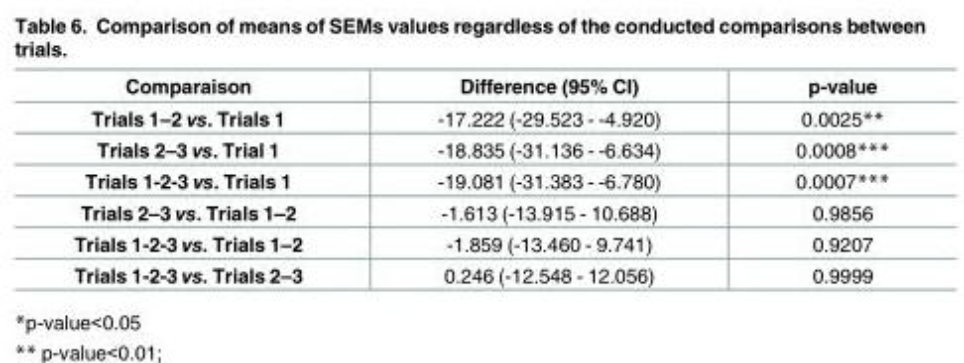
<table><thead><tr><td>Comparaison</td><td>Difference (95% CI)</td><td>p-value</td></tr></thead><tbody><tr><td>Trials 1–2 vs. Trials 1</td><td>-17.222 (-29.523 - -4.920)</td><td>0.0025**</td></tr><tr><td>Trials 2–3 vs. Trial 1</td><td>-18.835 (-31.136 - -6.634)</td><td>0.0008***</td></tr><tr><td>Trials 1-2-3 vs. Trials 1</td><td>-19.081 (-31.383 - -6.780)</td><td>0.0007***</td></tr><tr><td>Trials 2–3 vs. Trials 1–2</td><td>-1.613 (-13.915 - 10.688)</td><td>0.9856</td></tr><tr><td>Trials 1-2-3 vs. Trials 1–2</td><td>-1.859 (-13.460 - 9.741)</td><td>0.9207</td></tr><tr><td>Trials 1-2-3 vs. Trials 2–3</td><td>0.246 (-12.548 - 12.056)</td><td>0.9999</td></tr></tbody></table>